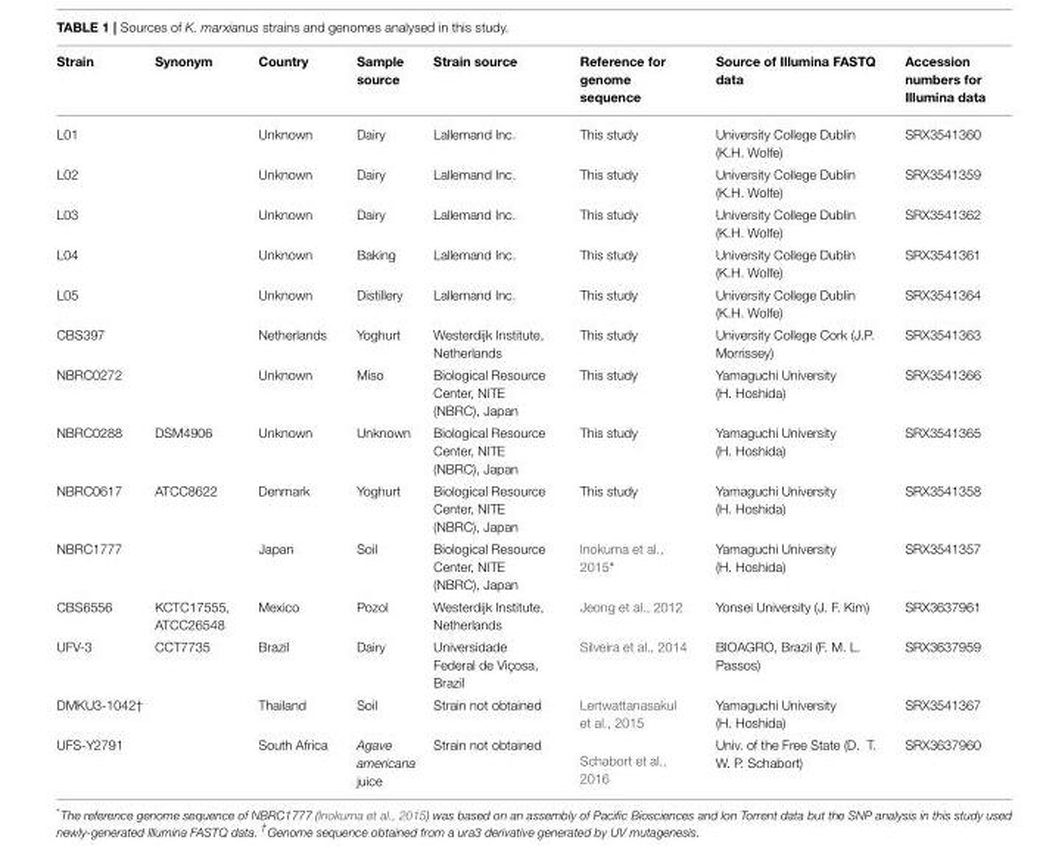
<table><thead><tr><td>Strain</td><td>Synonym</td><td>Country</td><td>Sample source</td><td>Strain source</td><td>Reference for genome sequence</td><td>Source of Illumina FASTQ data</td><td>Accession numbers for Illumina data</td></tr></thead><tbody><tr><td>L01</td><td></td><td>Unknown</td><td>Dairy</td><td>Lallemand Inc.</td><td>This study</td><td>University College Dublin (K.H. Wolfe)</td><td>SRX3541360</td></tr><tr><td>L02</td><td></td><td>Unknown</td><td>Dairy</td><td>Lallemand Inc.</td><td>This study</td><td>University College Dublin (K.H. Wolfe)</td><td>SRX3541359</td></tr><tr><td>L03</td><td></td><td>Unknown</td><td>Dairy</td><td>Lallemand Inc.</td><td>This study</td><td>University College Dublin (K.H. Wolfe)</td><td>SRX3541362</td></tr><tr><td>L04</td><td></td><td>Unknown</td><td>Baking</td><td>Lallemand Inc.</td><td>This study</td><td>University College Dublin (K.H. Wolfe)</td><td>SRX3541361</td></tr><tr><td>L05</td><td></td><td>Unknown</td><td>Distillery</td><td>Lallemand Inc.</td><td>This study</td><td>University College Dublin (K.H. Wolfe)</td><td>SRX3541364</td></tr><tr><td>CBS397</td><td></td><td>Netherlands</td><td>Yoghurt</td><td>Westerdijk Institute, Netherlands</td><td>This study</td><td>University College Cork (J.P. Morrissey)</td><td>SRX3541363</td></tr><tr><td>NBRC0272</td><td></td><td>Unknown</td><td>Miso</td><td>Biological Resource Center, NITE (NBRC), Japan</td><td>This study</td><td>Yamaguchi University (H. Hoshida)</td><td>SRX3541366</td></tr><tr><td>NBRC0288</td><td>DSM4906</td><td>Unknown</td><td>Unknown</td><td>Biological Resource Center, NITE (NBRC), Japan</td><td>This study</td><td>Yamaguchi University (H. Hoshida)</td><td>SRX3541365</td></tr><tr><td>NBRC0617</td><td>ATCC8622</td><td>Denmark</td><td>Yoghurt</td><td>Biological Resource Center, NITE (NBRC), Japan</td><td>This study</td><td>Yamaguchi University (H. Hoshida)</td><td>SRX3541358</td></tr><tr><td>NBRC1777</td><td></td><td>Japan</td><td>Soil</td><td>Biological Resource Center, NITE (NBRC), Japan</td><td>Inokuma et al., 2015*</td><td>Yamaguchi University (H. Hoshida)</td><td>SRX3541357</td></tr><tr><td>CBS6556</td><td>KCTC17555, ATCC26548</td><td>Mexico</td><td>Pozol</td><td>Westerdijk Institute, Netherlands</td><td>Jeong et al., 2012</td><td>Yonsei University (J. F. Kim)</td><td>SRX3637961</td></tr><tr><td>UFV-3</td><td>CCT7735</td><td>Brazil</td><td>Dairy</td><td>Universidade Federal de Viçosa, Brazil</td><td>Silveira et al., 2014</td><td>BIOAGRO, Brazil (F. M. L. Passos)</td><td>SRX3637959</td></tr><tr><td colspan="2">DMKU3-1042†</td><td>Thailand</td><td>Soil</td><td>Strain not obtained</td><td>Lertwattanasakul et al., 2015</td><td>Yamaguchi University (H. Hoshida)</td><td>SRX3541367</td></tr><tr><td colspan="2">UFS-Y2791</td><td>South Africa</td><td>Agave americana juice</td><td>Strain not obtained</td><td>Schabort et al., 2016</td><td>Univ. of the Free State (D. T. W. P. Schabort)</td><td>SRX3637960</td></tr></tbody></table>